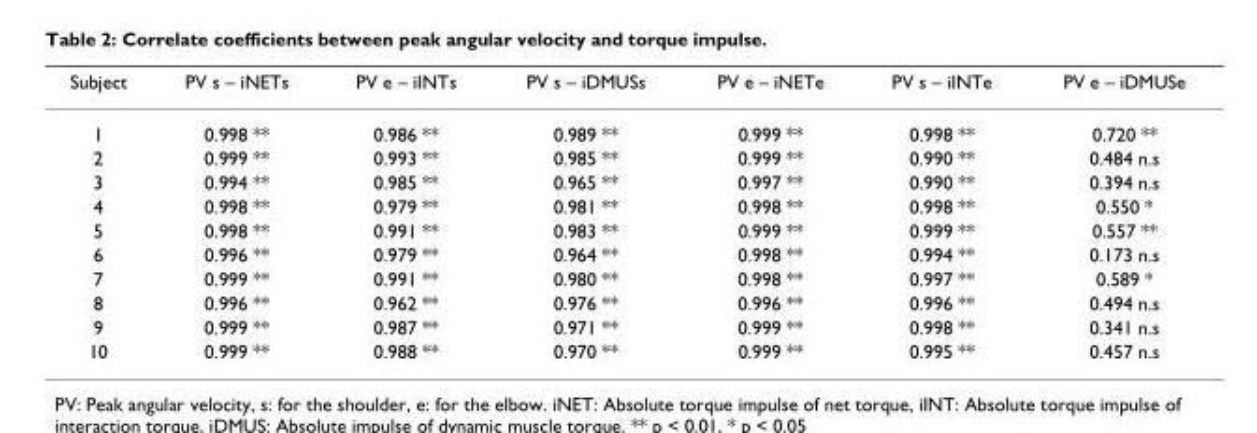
<table><thead><tr><td>Subject</td><td>PV s – iNETs</td><td>PV e – iINTs</td><td>PV s – iDMUSs</td><td>PV e – iNETe</td><td>PV s – iINTe</td><td>PV e – iDMUSe</td></tr></thead><tbody><tr><td>1</td><td>0.998 **</td><td>0.986 **</td><td>0.989 **</td><td>0.999 **</td><td>0.998 **</td><td>0.720 **</td></tr><tr><td>2</td><td>0.999 **</td><td>0.993 **</td><td>0.985 **</td><td>0.999 **</td><td>0.990 **</td><td>0.484 n.s</td></tr><tr><td>3</td><td>0.994 **</td><td>0.985 **</td><td>0.965 **</td><td>0.997 **</td><td>0.990 **</td><td>0.394 n.s</td></tr><tr><td>4</td><td>0.998 **</td><td>0.979 **</td><td>0.981 **</td><td>0.998 **</td><td>0.998 **</td><td>0.550 *</td></tr><tr><td>5</td><td>0.998 **</td><td>0.991 **</td><td>0.983 **</td><td>0.999 **</td><td>0.999 **</td><td>0.557 **</td></tr><tr><td>6</td><td>0.996 **</td><td>0.979 **</td><td>0.964 **</td><td>0.998 **</td><td>0.994 **</td><td>0.173 n.s</td></tr><tr><td>7</td><td>0.999 **</td><td>0.991 **</td><td>0.980 **</td><td>0.998 **</td><td>0.997 **</td><td>0.589 *</td></tr><tr><td>8</td><td>0.996 **</td><td>0.962 **</td><td>0.976 **</td><td>0.996 **</td><td>0.996 **</td><td>0.494 n.s</td></tr><tr><td>9</td><td>0.999 **</td><td>0.987 **</td><td>0.971 **</td><td>0.999 **</td><td>0.998 **</td><td>0.341 n.s</td></tr><tr><td>10</td><td>0.999 **</td><td>0.988 **</td><td>0.970 **</td><td>0.999 **</td><td>0.995 **</td><td>0.457 n.s</td></tr></tbody></table>